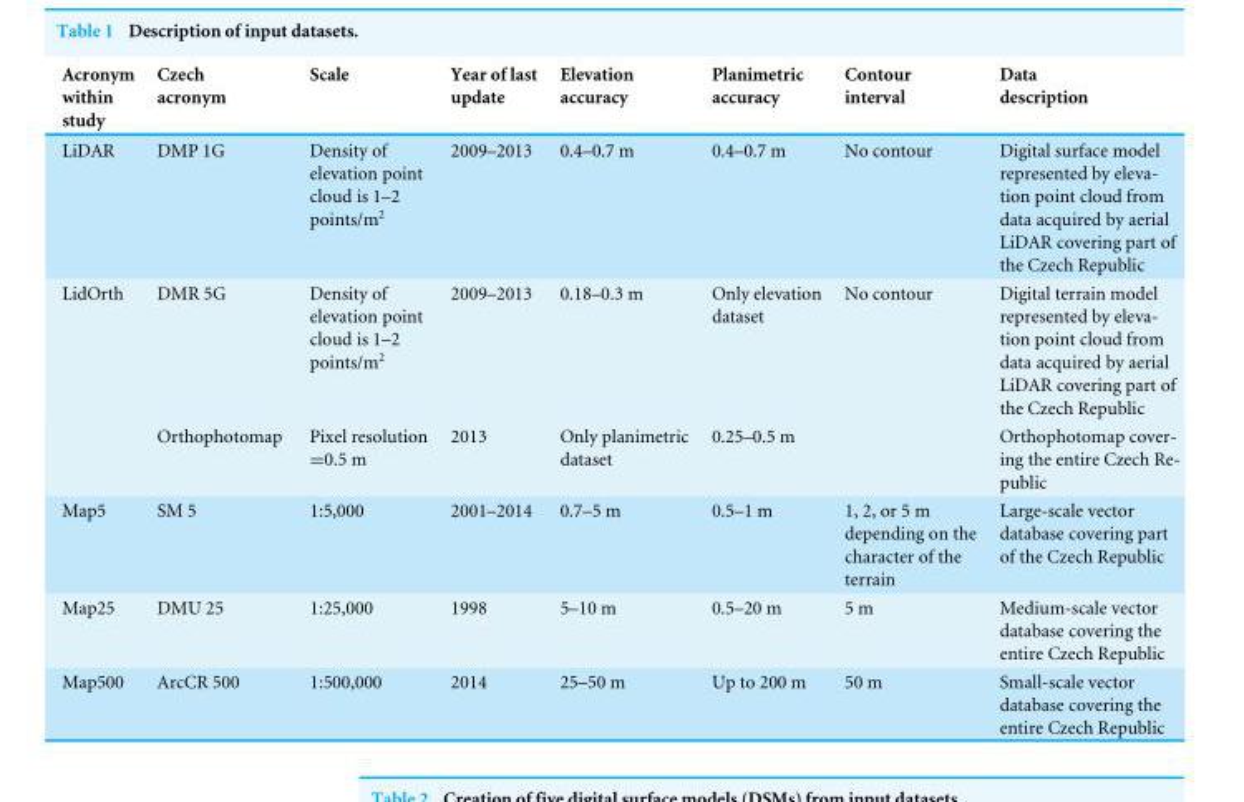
<table><thead><tr><td>Acronym within study</td><td>Czech acronym</td><td>Scale</td><td>Year of last update</td><td>Elevation accuracy</td><td>Planimetric accuracy</td><td>Contour interval</td><td>Data description</td></tr></thead><tbody><tr><td>LiDAR</td><td>DMP 1G</td><td>Density of elevation point cloud is 1–2 points/m<sup>2</sup></td><td>2009–2013</td><td>0.4–0.7 m</td><td>0.4–0.7 m</td><td>No contour</td><td>Digital surface model represented by eleva- tion point cloud from data acquired by aerial LiDAR covering part of the Czech Republic</td></tr><tr><td rowspan="2">LidOrth</td><td>DMR 5G</td><td>Density of elevation point cloud is 1–2 points/m<sup>2</sup></td><td>2009–2013</td><td>0.18–0.3 m</td><td>Only elevation dataset</td><td>No contour</td><td>Digital terrain model represented by eleva- tion point cloud from data acquired by aerial LiDAR covering part of the Czech Republic</td></tr><tr><td>Orthophotomap</td><td>Pixel resolution =0.5 m</td><td>2013</td><td>Only planimetric dataset</td><td>0.25–0.5 m</td><td></td><td>Orthophotomap cover- ing the entire Czech Re- public</td></tr><tr><td>Map5</td><td>SM 5</td><td>1:5,000</td><td>2001–2014</td><td>0.7–5 m</td><td>0.5–1 m</td><td>1, 2, or 5 m depending on the character of the terrain</td><td>Large-scale vector database covering part of the Czech Republic</td></tr><tr><td>Map25</td><td>DMU 25</td><td>1:25,000</td><td>1998</td><td>5–10 m</td><td>0.5–20 m</td><td>5 m</td><td>Medium-scale vector database covering the entire Czech Republic</td></tr><tr><td>Map500</td><td>ArcCR 500</td><td>1:500,000</td><td>2014</td><td>25–50 m</td><td>Up to 200 m</td><td>50 m</td><td>Small-scale vector database covering the entire Czech Republic</td></tr></tbody></table>